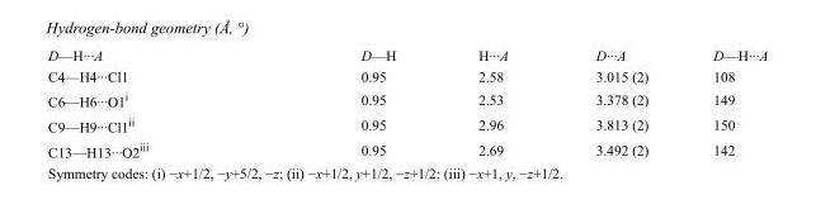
<table><tbody><tr><td>D—H···A</td><td>D—H</td><td>H···A</td><td>D···A</td><td>D—H···A</td></tr><tr><td>C4—H4···Cl1</td><td>0.95</td><td>2.58</td><td>3.015 (2)</td><td>108</td></tr><tr><td>C6—H6···O1<sup>i</sup></td><td>0.95</td><td>2.53</td><td>3.378 (2)</td><td>149</td></tr><tr><td>C9—H9···Cl1<sup>ii</sup></td><td>0.95</td><td>2.96</td><td>3.813 (2)</td><td>150</td></tr><tr><td>C13—H13···O2<sup>iii</sup></td><td>0.95</td><td>2.69</td><td>3.492 (2)</td><td>142</td></tr></tbody></table>